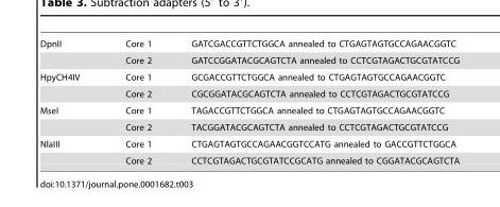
<table><tbody><tr><td rowspan="2">DpnII</td><td>Core 1</td><td>GATCGACCGTTCTGGCA annealed to CTGAGTAGTGCCAGAACGGTC</td></tr><tr><td>Core 2</td><td>GATCCGGATACGCAGTCTA annealed to CCTCGTAGACTGCGTATCCG</td></tr><tr><td rowspan="2">HpyCH4IV</td><td>Core 1</td><td>GCGACCGTTCTGGCA annealed to CTGAGTAGTGCCAGAACGGTC</td></tr><tr><td>Core 2</td><td>CGCGGATACGCAGTCTA annealed to CCTCGTAGACTGCGTATCCG</td></tr><tr><td rowspan="2">MseI</td><td>Core 1</td><td>TAGACCGTTCTGGCA annealed to CTGAGTAGTGCCAGAACGGTC</td></tr><tr><td>Core 2</td><td>TACGGATACGCAGTCTA annealed to CCTCGTAGACTGCGTATCCG</td></tr><tr><td rowspan="2">NlaIII</td><td>Core 1</td><td>CTGAGTAGTGCCAGAACGGTCCATG annealed to GACCGTTCTGGCA</td></tr><tr><td>Core 2</td><td>CCTCGTAGACTGCGTATCCGCATG annealed to CGGATACGCAGTCTA</td></tr></tbody></table>